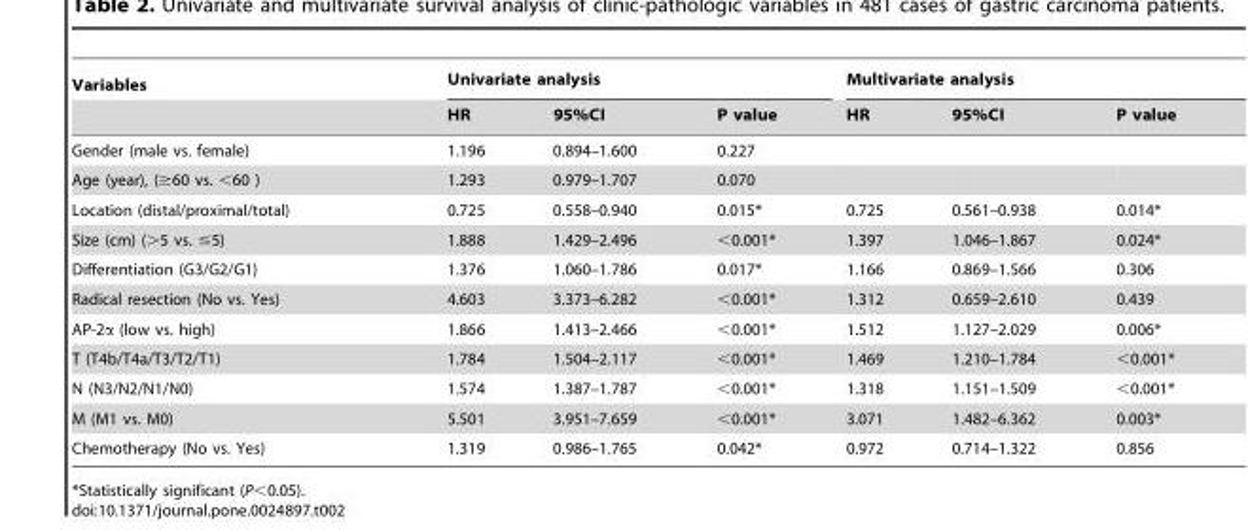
<table><thead><tr><td rowspan="2">Variables</td><td colspan="3">Univariate analysis</td><td colspan="3">Multivariate analysis</td></tr><tr><td>HR</td><td>95%CI</td><td>P value</td><td>HR</td><td>95%CI</td><td>P value</td></tr></thead><tbody><tr><td>Gender (male vs. female)</td><td>1.196</td><td>0.894–1.600</td><td>0.227</td><td></td><td></td><td></td></tr><tr><td>Age (year), (≥60 vs. &lt;60 )</td><td>1.293</td><td>0.979–1.707</td><td>0.070</td><td></td><td></td><td></td></tr><tr><td>Location (distal/proximal/total)</td><td>0.725</td><td>0.558–0.940</td><td>0.015*</td><td>0.725</td><td>0.561–0.938</td><td>0.014*</td></tr><tr><td>Size (cm) (&gt;5 vs. ≤5)</td><td>1.888</td><td>1.429–2.496</td><td>&lt;0.001*</td><td>1.397</td><td>1.046–1.867</td><td>0.024*</td></tr><tr><td>Differentiation (G3/G2/G1)</td><td>1.376</td><td>1.060–1.786</td><td>0.017*</td><td>1.166</td><td>0.869–1.566</td><td>0.306</td></tr><tr><td>Radical resection (No vs. Yes)</td><td>4.603</td><td>3.373–6.282</td><td>&lt;0.001*</td><td>1.312</td><td>0.659–2.610</td><td>0.439</td></tr><tr><td>AP-2α (low vs. high)</td><td>1.866</td><td>1.413–2.466</td><td>&lt;0.001*</td><td>1.512</td><td>1.127–2.029</td><td>0.006*</td></tr><tr><td>T (T4b/T4a/T3/T2/T1)</td><td>1.784</td><td>1.504–2.117</td><td>&lt;0.001*</td><td>1.469</td><td>1.210–1.784</td><td>&lt;0.001*</td></tr><tr><td>N (N3/N2/N1/N0)</td><td>1.574</td><td>1.387–1.787</td><td>&lt;0.001*</td><td>1.318</td><td>1.151–1.509</td><td>&lt;0.001*</td></tr><tr><td>M (M1 vs. M0)</td><td>5.501</td><td>3.951–7.659</td><td>&lt;0.001*</td><td>3.071</td><td>1.482–6.362</td><td>0.003*</td></tr><tr><td>Chemotherapy (No vs. Yes)</td><td>1.319</td><td>0.986–1.765</td><td>0.042*</td><td>0.972</td><td>0.714–1.322</td><td>0.856</td></tr></tbody></table>